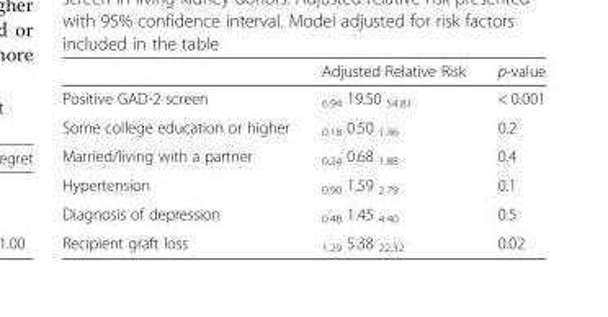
<table><thead><tr><td></td><td>Adjusted Relative Risk</td><td>p-value</td></tr></thead><tbody><tr><td>Positive GAD-2 screen</td><td><sub>6.94</sub> 19.50 <sub>54.81</sub></td><td>&lt; 0.001</td></tr><tr><td>Some college education or higher</td><td><sub>0.18</sub> 0.50 <sub>1.36</sub></td><td>0.2</td></tr><tr><td>Married/living with a partner</td><td><sub>0.24</sub> 0.68 <sub>1.88</sub></td><td>0.4</td></tr><tr><td>Hypertension</td><td><sub>0.90</sub> 1.59 <sub>2.79</sub></td><td>0.1</td></tr><tr><td>Diagnosis of depression</td><td><sub>0.48</sub> 1.45 <sub>4.40</sub></td><td>0.5</td></tr><tr><td>Recipient graft loss</td><td><sub>1.29</sub> 5.38 <sub>22.32</sub></td><td>0.02</td></tr></tbody></table>